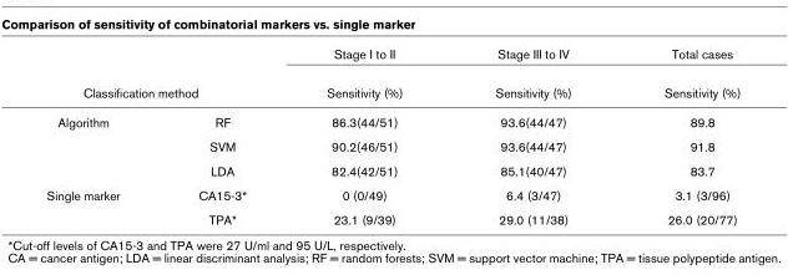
<table><thead><tr><td></td><td></td><td rowspan="2">Stage I to II Sensitivity (%)</td><td rowspan="2">Stage III to IV Sensitivity (%)</td><td rowspan="2">Total cases Sensitivity (%)</td></tr><tr><td colspan="2">Classification method</td></tr></thead><tbody><tr><td rowspan="3">Algorithm</td><td>RF</td><td>86.3(44/51)</td><td>93.6(44/47)</td><td>89.8</td></tr><tr><td>SVM</td><td>90.2(46/51)</td><td>93.6(44/47)</td><td>91.8</td></tr><tr><td>LDA</td><td>82.4(42/51)</td><td>85.1(40/47)</td><td>83.7</td></tr><tr><td rowspan="2">Single marker</td><td>CA15-3*</td><td>0 (0/49)</td><td>6.4 (3/47)</td><td>3.1 (3/96)</td></tr><tr><td>TPA*</td><td>23.1 (9/39)</td><td>29.0 (11/38)</td><td>26.0 (20/77)</td></tr></tbody></table>